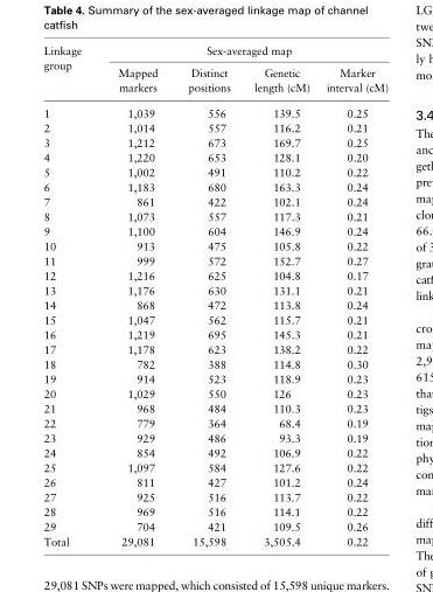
<table><thead><tr><td rowspan="2">Linkage group</td><td colspan="4">Sex-averaged map</td></tr><tr><td>Mapped markers</td><td>Distinct positions</td><td>Genetic length (cM)</td><td>Marker interval (cM)</td></tr></thead><tbody><tr><td>1</td><td>1,039</td><td>556</td><td>139.5</td><td>0.25</td></tr><tr><td>2</td><td>1,014</td><td>557</td><td>116.2</td><td>0.21</td></tr><tr><td>3</td><td>1,212</td><td>673</td><td>169.7</td><td>0.25</td></tr><tr><td>4</td><td>1,220</td><td>653</td><td>128.1</td><td>0.20</td></tr><tr><td>5</td><td>1,002</td><td>491</td><td>110.2</td><td>0.22</td></tr><tr><td>6</td><td>1,183</td><td>680</td><td>163.3</td><td>0.24</td></tr><tr><td>7</td><td>861</td><td>422</td><td>102.1</td><td>0.24</td></tr><tr><td>8</td><td>1,073</td><td>557</td><td>117.3</td><td>0.21</td></tr><tr><td>9</td><td>1,100</td><td>604</td><td>146.9</td><td>0.24</td></tr><tr><td>10</td><td>913</td><td>475</td><td>105.8</td><td>0.22</td></tr><tr><td>11</td><td>999</td><td>572</td><td>152.7</td><td>0.27</td></tr><tr><td>12</td><td>1,216</td><td>625</td><td>104.8</td><td>0.17</td></tr><tr><td>13</td><td>1,176</td><td>630</td><td>131.1</td><td>0.21</td></tr><tr><td>14</td><td>868</td><td>472</td><td>113.8</td><td>0.24</td></tr><tr><td>15</td><td>1,047</td><td>562</td><td>115.7</td><td>0.21</td></tr><tr><td>16</td><td>1,219</td><td>695</td><td>145.3</td><td>0.21</td></tr><tr><td>17</td><td>1,178</td><td>623</td><td>138.2</td><td>0.22</td></tr><tr><td>18</td><td>782</td><td>388</td><td>114.8</td><td>0.30</td></tr><tr><td>19</td><td>914</td><td>523</td><td>118.9</td><td>0.23</td></tr><tr><td>20</td><td>1,029</td><td>550</td><td>126</td><td>0.23</td></tr><tr><td>21</td><td>968</td><td>484</td><td>110.3</td><td>0.23</td></tr><tr><td>22</td><td>779</td><td>364</td><td>68.4</td><td>0.19</td></tr><tr><td>23</td><td>929</td><td>486</td><td>93.3</td><td>0.19</td></tr><tr><td>24</td><td>854</td><td>492</td><td>106.9</td><td>0.22</td></tr><tr><td>25</td><td>1,097</td><td>584</td><td>127.6</td><td>0.22</td></tr><tr><td>26</td><td>811</td><td>427</td><td>101.2</td><td>0.24</td></tr><tr><td>27</td><td>925</td><td>516</td><td>113.7</td><td>0.22</td></tr><tr><td>28</td><td>969</td><td>516</td><td>114.1</td><td>0.22</td></tr><tr><td>29</td><td>704</td><td>421</td><td>109.5</td><td>0.26</td></tr><tr><td>Total</td><td>29,081</td><td>15,598</td><td>3,505.4</td><td>0.22</td></tr></tbody></table>